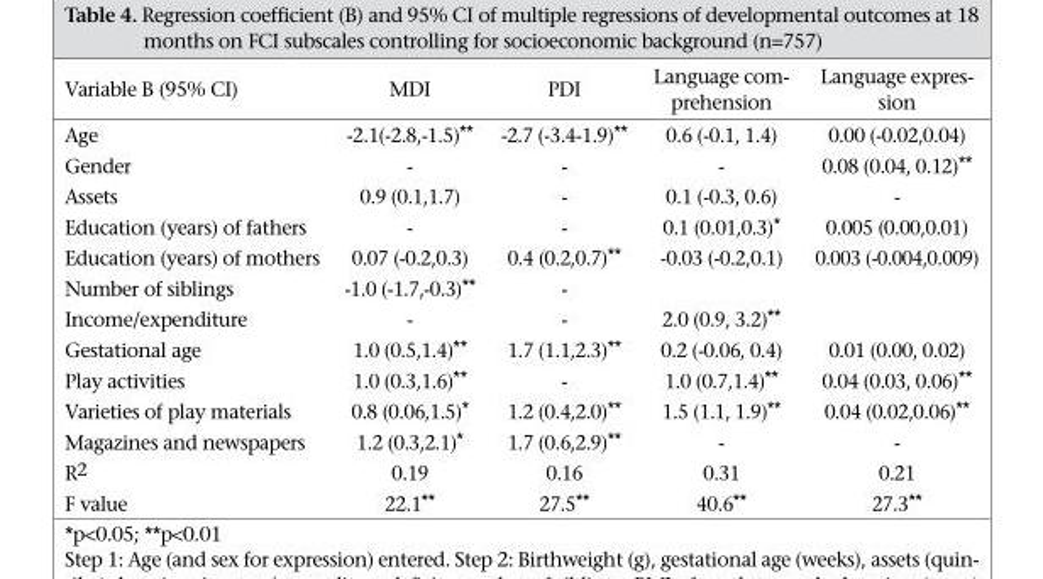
<table><thead><tr><td>Variable B (95% CI)</td><td>MDI</td><td>PDI</td><td>Language com- prehension</td><td>Language expres- sion</td></tr></thead><tbody><tr><td>Age</td><td>-2.1(-2.8,-1.5)**</td><td>-2.7 (-3.4-1.9)**</td><td>0.6 (-0.1, 1.4)</td><td>0.00 (-0.02,0.04)</td></tr><tr><td>Gender</td><td>-</td><td>-</td><td>-</td><td>0.08 (0.04, 0.12)**</td></tr><tr><td>Assets</td><td>0.9 (0.1,1.7)</td><td>-</td><td>0.1 (-0.3, 0.6)</td><td>-</td></tr><tr><td>Education (years) of fathers</td><td>-</td><td>-</td><td>0.1 (0.01,0.3)*</td><td>0.005 (0.00,0.01)</td></tr><tr><td>Education (years) of mothers</td><td>0.07 (-0.2,0.3)</td><td>0.4 (0.2,0.7)**</td><td>-0.03 (-0.2,0.1)</td><td>0.003 (-0.004,0.009)</td></tr><tr><td>Number of siblings</td><td>-1.0 (-1.7,-0.3)**</td><td>-</td><td></td><td></td></tr><tr><td>Income/expenditure</td><td>-</td><td>-</td><td>2.0 (0.9, 3.2)**</td><td></td></tr><tr><td>Gestational age</td><td>1.0 (0.5,1.4)**</td><td>1.7 (1.1,2.3)**</td><td>0.2 (-0.06, 0.4)</td><td>0.01 (0.00, 0.02)</td></tr><tr><td>Play activities</td><td>1.0 (0.3,1.6)**</td><td>-</td><td>1.0 (0.7,1.4)**</td><td>0.04 (0.03, 0.06)**</td></tr><tr><td>Varieties of play materials</td><td>0.8 (0.06,1.5)*</td><td>1.2 (0.4,2.0)**</td><td>1.5 (1.1, 1.9)**</td><td>0.04 (0.02,0.06)**</td></tr><tr><td>Magazines and newspapers</td><td>1.2 (0.3,2.1)*</td><td>1.7 (0.6,2.9)**</td><td>-</td><td>-</td></tr><tr><td>R2</td><td>0.19</td><td>0.16</td><td>0.31</td><td>0.21</td></tr><tr><td>F value</td><td>22.1**</td><td>27.5**</td><td>40.6**</td><td>27.3**</td></tr></tbody></table>